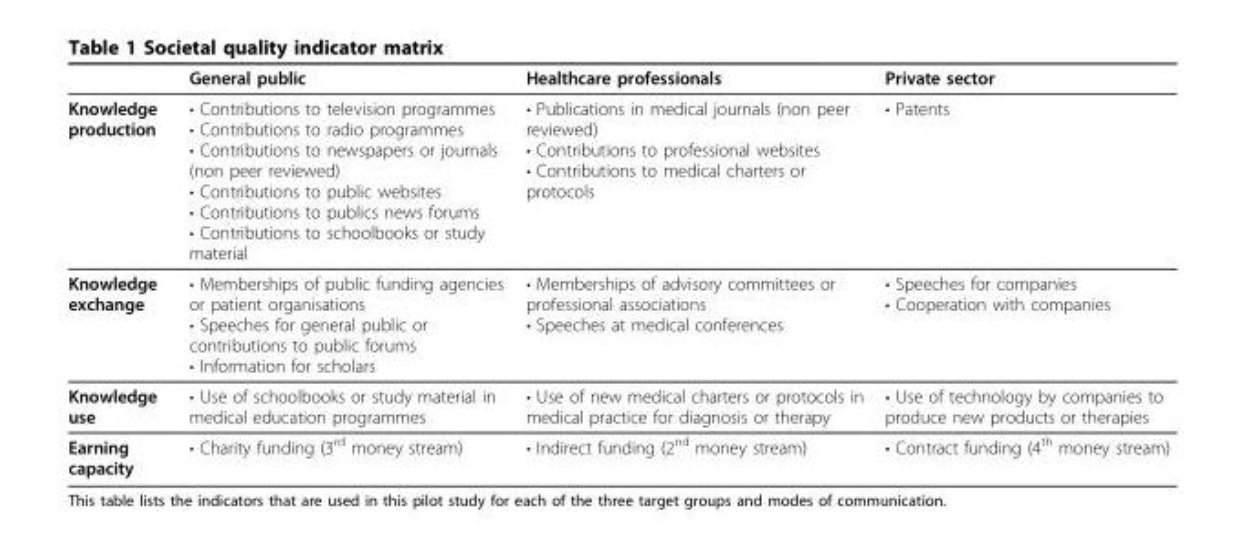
<table><thead><tr><td></td><td>General public</td><td>Healthcare professionals</td><td>Private sector</td></tr></thead><tbody><tr><td>Knowledge production</td><td>• Contributions to television programmes • Contributions to radio programmes • Contributions to newspapers or journals (non peer reviewed) • Contributions to public websites • Contributions to publics news forums • Contributions to schoolbooks or study material</td><td>• Publications in medical journals (non peer reviewed) • Contributions to professional websites • Contributions to medical charters or protocols</td><td>• Patents</td></tr><tr><td>Knowledge exchange</td><td>• Memberships of public funding agencies or patient organisations • Speeches for general public or contributions to public forums • Information for scholars</td><td>• Memberships of advisory committees or professional associations • Speeches at medical conferences</td><td>• Speeches for companies • Cooperation with companies</td></tr><tr><td>Knowledge use</td><td>• Use of schoolbooks or study material in medical education programmes</td><td>• Use of new medical charters or protocols in medical practice for diagnosis or therapy</td><td>• Use of technology by companies to produce new products or therapies</td></tr><tr><td>Earning capacity</td><td>• Charity funding (3<sup>rd</sup> money stream)</td><td>• Indirect funding (2<sup>nd</sup> money stream)</td><td>• Contract funding (4<sup>th</sup> money stream)</td></tr></tbody></table>